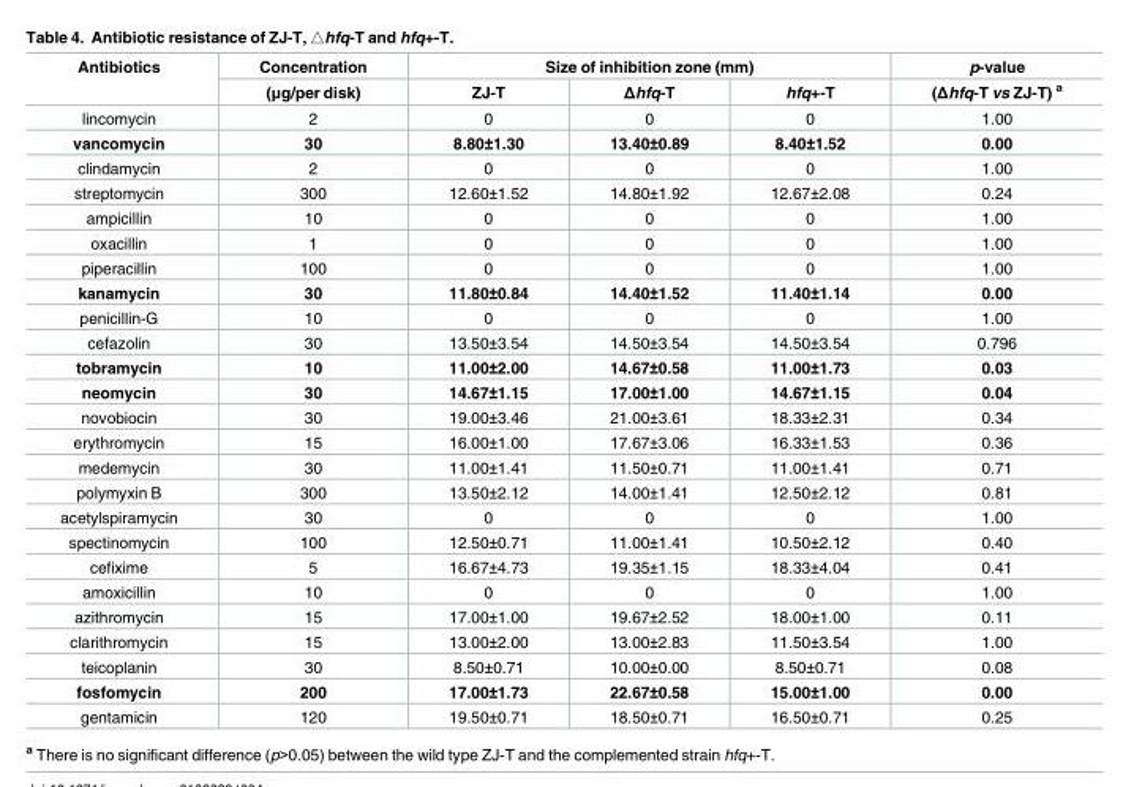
<table><thead><tr><td rowspan="2">Antibiotics</td><td rowspan="2">Concentration (μg/per disk)</td><td colspan="3">Size of inhibition zone (mm)</td><td rowspan="2">p-value (Δhfq-T vs ZJ-T) <sup>a</sup></td></tr><tr><td>ZJ-T</td><td>Δhfq-T</td><td>hfq+-T</td></tr></thead><tbody><tr><td>lincomycin</td><td>2</td><td>0</td><td>0</td><td>0</td><td>1.00</td></tr><tr><td>vancomycin</td><td>30</td><td>8.80±1.30</td><td>13.40±0.89</td><td>8.40±1.52</td><td>0.00</td></tr><tr><td>clindamycin</td><td>2</td><td>0</td><td>0</td><td>0</td><td>1.00</td></tr><tr><td>streptomycin</td><td>300</td><td>12.60±1.52</td><td>14.80±1.92</td><td>12.67±2.08</td><td>0.24</td></tr><tr><td>ampicillin</td><td>10</td><td>0</td><td>0</td><td>0</td><td>1.00</td></tr><tr><td>oxacillin</td><td>1</td><td>0</td><td>0</td><td>0</td><td>1.00</td></tr><tr><td>piperacillin</td><td>100</td><td>0</td><td>0</td><td>0</td><td>1.00</td></tr><tr><td>kanamycin</td><td>30</td><td>11.80±0.84</td><td>14.40±1.52</td><td>11.40±1.14</td><td>0.00</td></tr><tr><td>penicillin-G</td><td>10</td><td>0</td><td>0</td><td>0</td><td>1.00</td></tr><tr><td>cefazolin</td><td>30</td><td>13.50±3.54</td><td>14.50±3.54</td><td>14.50±3.54</td><td>0.796</td></tr><tr><td>tobramycin</td><td>10</td><td>11.00±2.00</td><td>14.67±0.58</td><td>11.00±1.73</td><td>0.03</td></tr><tr><td>neomycin</td><td>30</td><td>14.67±1.15</td><td>17.00±1.00</td><td>14.67±1.15</td><td>0.04</td></tr><tr><td>novobiocin</td><td>30</td><td>19.00±3.46</td><td>21.00±3.61</td><td>18.33±2.31</td><td>0.34</td></tr><tr><td>erythromycin</td><td>15</td><td>16.00±1.00</td><td>17.67±3.06</td><td>16.33±1.53</td><td>0.36</td></tr><tr><td>medemycin</td><td>30</td><td>11.00±1.41</td><td>11.50±0.71</td><td>11.00±1.41</td><td>0.71</td></tr><tr><td>polymyxin B</td><td>300</td><td>13.50±2.12</td><td>14.00±1.41</td><td>12.50±2.12</td><td>0.81</td></tr><tr><td>acetylspiramycin</td><td>30</td><td>0</td><td>0</td><td>0</td><td>1.00</td></tr><tr><td>spectinomycin</td><td>100</td><td>12.50±0.71</td><td>11.00±1.41</td><td>10.50±2.12</td><td>0.40</td></tr><tr><td>cefixime</td><td>5</td><td>16.67±4.73</td><td>19.35±1.15</td><td>18.33±4.04</td><td>0.41</td></tr><tr><td>amoxicillin</td><td>10</td><td>0</td><td>0</td><td>0</td><td>1.00</td></tr><tr><td>azithromycin</td><td>15</td><td>17.00±1.00</td><td>19.67±2.52</td><td>18.00±1.00</td><td>0.11</td></tr><tr><td>clarithromycin</td><td>15</td><td>13.00±2.00</td><td>13.00±2.83</td><td>11.50±3.54</td><td>1.00</td></tr><tr><td>teicoplanin</td><td>30</td><td>8.50±0.71</td><td>10.00±0.00</td><td>8.50±0.71</td><td>0.08</td></tr><tr><td>fosfomycin</td><td>200</td><td>17.00±1.73</td><td>22.67±0.58</td><td>15.00±1.00</td><td>0.00</td></tr><tr><td>gentamicin</td><td>120</td><td>19.50±0.71</td><td>18.50±0.71</td><td>16.50±0.71</td><td>0.25</td></tr></tbody></table>